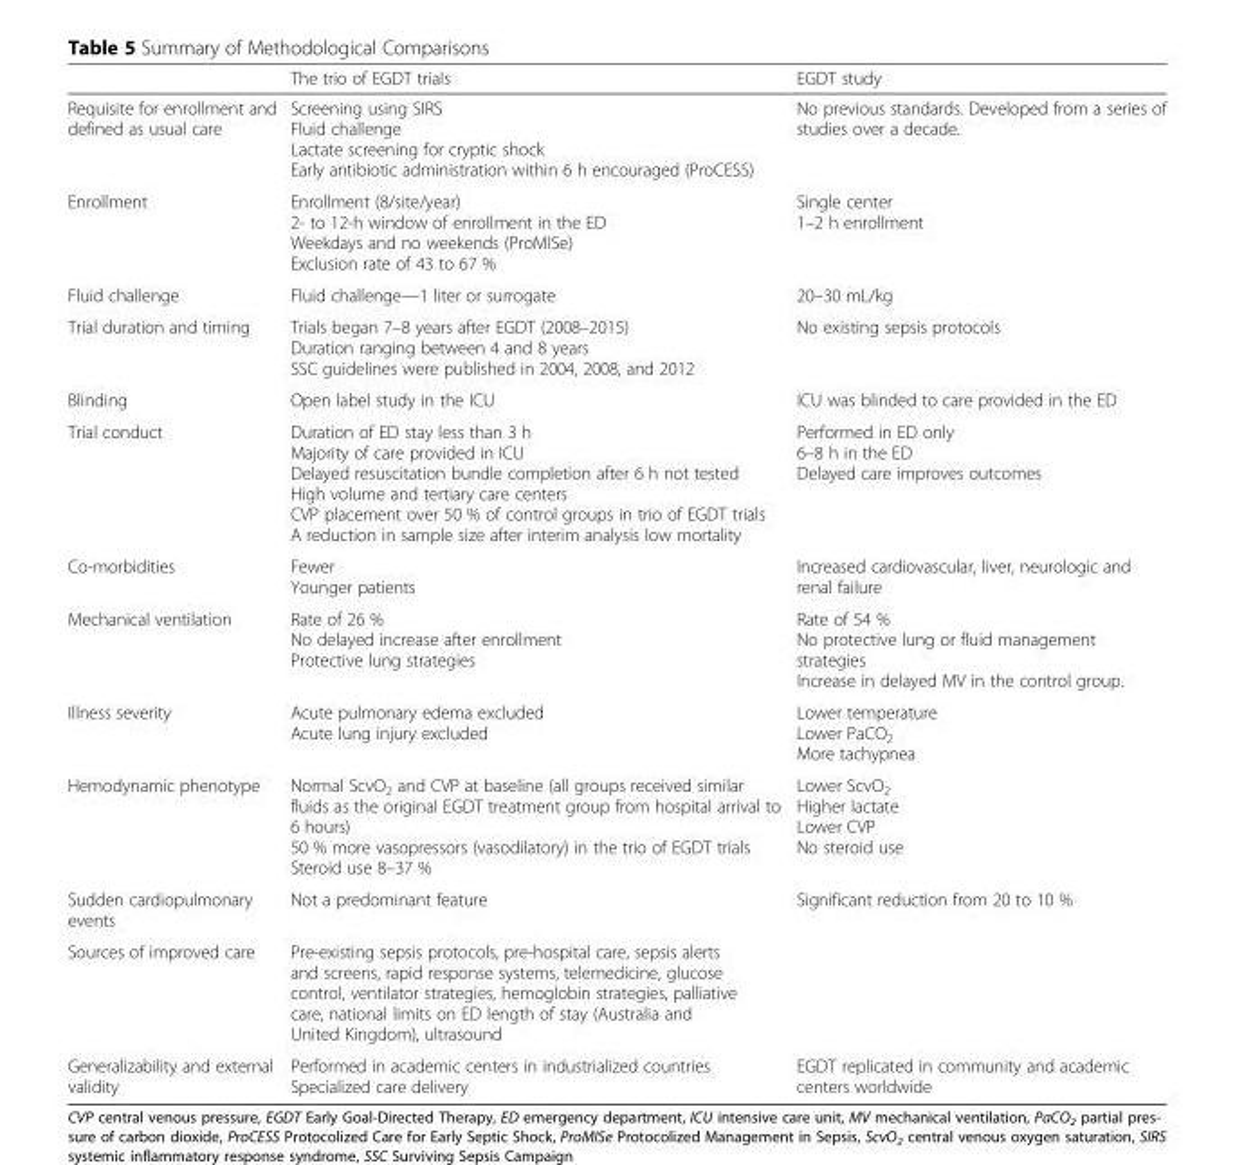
<table><thead><tr><td></td><td>The trio of EGDT trials</td><td>EGDT study</td></tr></thead><tbody><tr><td>Requisite for enrollment and defined as usual care</td><td>Screening using SIRS Fluid challenge Lactate screening for cryptic shock Early antibiotic administration within 6 h encouraged (ProCESS)</td><td>No previous standards. Developed from a series of studies over a decade.</td></tr><tr><td>Enrollment</td><td>Enrollment (8/site/year) 2- to 12-h window of enrollment in the ED Weekdays and no weekends (ProMISe) Exclusion rate of 43 to 67 %</td><td>Single center 1–2 h enrollment</td></tr><tr><td>Fluid challenge</td><td>Fluid challenge—1 liter or surrogate</td><td>20–30 mL/kg</td></tr><tr><td>Trial duration and timing</td><td>Trials began 7–8 years after EGDT (2008–2015) Duration ranging between 4 and 8 years SSC guidelines were published in 2004, 2008, and 2012</td><td>No existing sepsis protocols</td></tr><tr><td>Blinding</td><td>Open label study in the ICU</td><td>ICU was blinded to care provided in the ED</td></tr><tr><td>Trial conduct</td><td>Duration of ED stay less than 3 h Majority of care provided in ICU Delayed resuscitation bundle completion after 6 h not tested High volume and tertiary care centers CVP placement over 50 % of control groups in trio of EGDT trials A reduction in sample size after interim analysis low mortality</td><td>Performed in ED only 6–8 h in the ED Delayed care improves outcomes</td></tr><tr><td>Co-morbidities</td><td>Fewer Younger patients</td><td>Increased cardiovascular, liver, neurologic and renal failure</td></tr><tr><td>Mechanical ventilation</td><td>Rate of 26 % No delayed increase after enrollment Protective lung strategies</td><td>Rate of 54 % No protective lung or fluid management strategies Increase in delayed MV in the control group.</td></tr><tr><td>Illness severity</td><td>Acute pulmonary edema excluded Acute lung injury excluded</td><td>Lower temperature Lower PaCO<sub>2</sub> More tachypnea</td></tr><tr><td>Hemodynamic phenotype</td><td>Normal ScvO<sub>2</sub> and CVP at baseline (all groups received similar fluids as the original EGDT treatment group from hospital arrival to 6 hours) 50 % more vasopressors (vasodilatory) in the trio of EGDT trials Steroid use 8–37 %</td><td>Lower ScvO<sub>2</sub> Higher lactate Lower CVP No steroid use</td></tr><tr><td>Sudden cardiopulmonary events</td><td>Not a predominant feature</td><td>Significant reduction from 20 to 10 %</td></tr><tr><td>Sources of improved care</td><td>Pre-existing sepsis protocols, pre-hospital care, sepsis alerts and screens, rapid response systems, telemedicine, glucose control, ventilator strategies, hemoglobin strategies, palliative care, national limits on ED length of stay (Australia and United Kingdom), ultrasound</td><td></td></tr><tr><td>Generalizability and external validity</td><td>Performed in academic centers in industrialized countries Specialized care delivery</td><td>EGDT replicated in community and academic centers worldwide</td></tr></tbody></table>